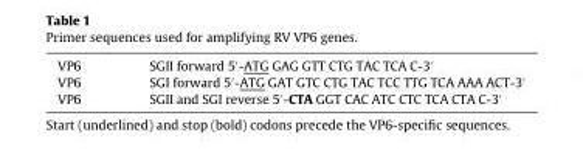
<table><tbody><tr><td>VP6</td><td>SGII forward 5′-ATG GAG GTT CTG TAC TCA C-3′</td></tr><tr><td>VP6</td><td>SGI forward 5′-ATG GAT GTC CTG TAC TCC TTG TCA AAA ACT-3′</td></tr><tr><td>VP6</td><td>SGII and SGI reverse 5′-CTA GGT CAC ATC CTC TCA CTA C-3′</td></tr></tbody></table>